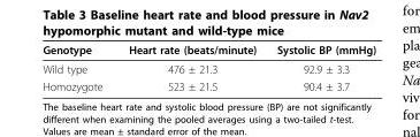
<table><thead><tr><td>Genotype</td><td>Heart rate (beats/minute)</td><td>Systolic BP (mmHg)</td></tr></thead><tbody><tr><td>Wild type</td><td>476 ± 21.3</td><td>92.9 ± 3.3</td></tr><tr><td>Homozygote</td><td>523 ± 21.5</td><td>90.4 ± 3.7</td></tr></tbody></table>